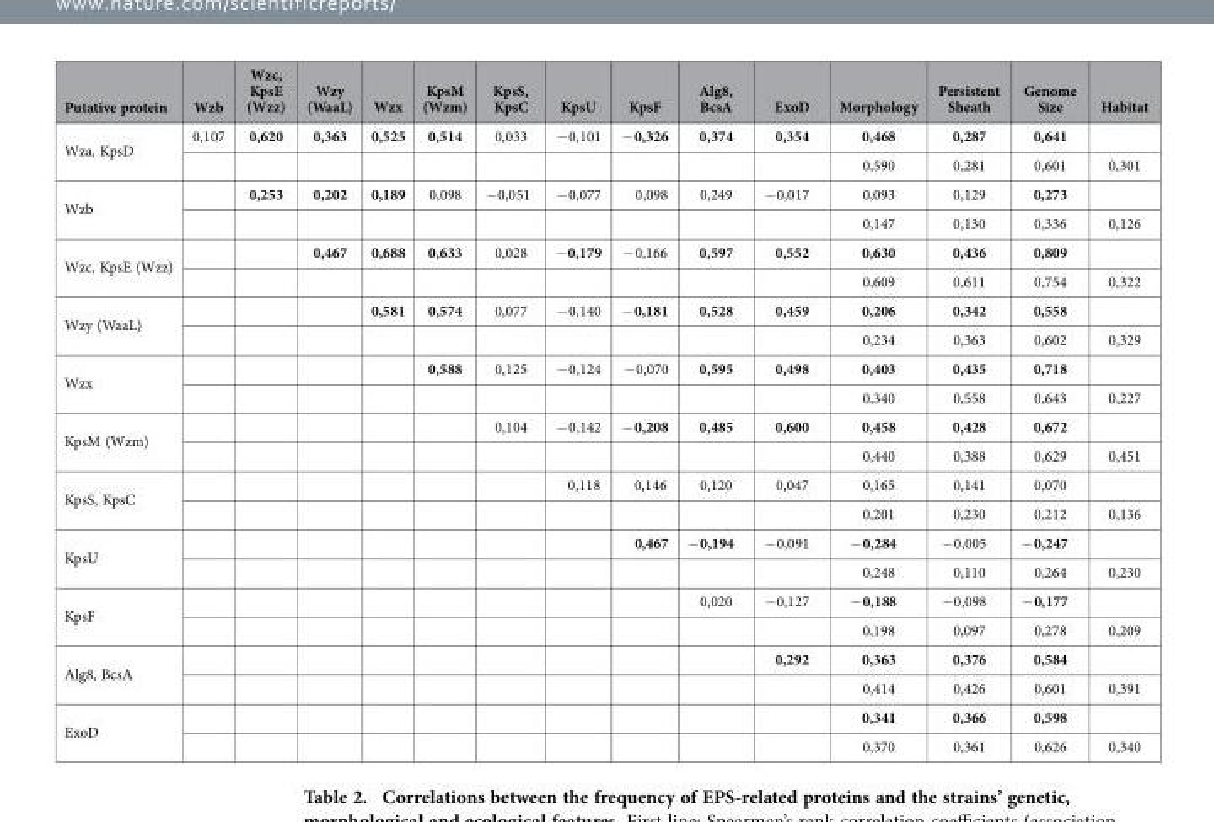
<table><thead><tr><td>Putative protein</td><td>Wzb</td><td>Wzc, KpsE (Wzz)</td><td>Wzy (WaaL)</td><td>Wzx</td><td>KpsM (Wzm)</td><td>KpsS, KpsC</td><td>KpsU</td><td>KpsF</td><td>Alg8, BcsA</td><td>ExoD</td><td>Morphology</td><td>Persistent Sheath</td><td>Genome Size</td><td>Habitat</td></tr></thead><tbody><tr><td rowspan="2">Wza, KpsD</td><td>0,107</td><td>0,620</td><td>0,363</td><td>0,525</td><td>0,514</td><td>0,033</td><td>− 0,101</td><td>− 0,326</td><td>0,374</td><td>0,354</td><td>0,468</td><td>0,287</td><td>0,641</td><td></td></tr><tr><td></td><td></td><td></td><td></td><td></td><td></td><td></td><td></td><td></td><td></td><td>0,590</td><td>0,281</td><td>0,601</td><td>0,301</td></tr><tr><td rowspan="2">Wzb</td><td></td><td>0,253</td><td>0,202</td><td>0,189</td><td>0,098</td><td>− 0,051</td><td>− 0,077</td><td>0,098</td><td>0,249</td><td>− 0,017</td><td>0,093</td><td>0,129</td><td>0,273</td><td></td></tr><tr><td></td><td></td><td></td><td></td><td></td><td></td><td></td><td></td><td></td><td></td><td>0,147</td><td>0,130</td><td>0,336</td><td>0,126</td></tr><tr><td rowspan="2">Wzc, KpsE (Wzz)</td><td></td><td></td><td>0,467</td><td>0,688</td><td>0,633</td><td>0,028</td><td>− 0,179</td><td>− 0,166</td><td>0,597</td><td>0,552</td><td>0,630</td><td>0,436</td><td>0,809</td><td></td></tr><tr><td></td><td></td><td></td><td></td><td></td><td></td><td></td><td></td><td></td><td></td><td>0,609</td><td>0,611</td><td>0,754</td><td>0,322</td></tr><tr><td rowspan="2">Wzy (WaaL)</td><td></td><td></td><td></td><td>0,581</td><td>0,574</td><td>0,077</td><td>− 0,140</td><td>− 0,181</td><td>0,528</td><td>0,459</td><td>0,206</td><td>0,342</td><td>0,558</td><td></td></tr><tr><td></td><td></td><td></td><td></td><td></td><td></td><td></td><td></td><td></td><td></td><td>0,234</td><td>0,363</td><td>0,602</td><td>0,329</td></tr><tr><td rowspan="2">Wzx</td><td></td><td></td><td></td><td></td><td>0,588</td><td>0,125</td><td>− 0,124</td><td>− 0,070</td><td>0,595</td><td>0,498</td><td>0,403</td><td>0,435</td><td>0,718</td><td></td></tr><tr><td></td><td></td><td></td><td></td><td></td><td></td><td></td><td></td><td></td><td></td><td>0,340</td><td>0,558</td><td>0,643</td><td>0,227</td></tr><tr><td rowspan="2">KpsM (Wzm)</td><td></td><td></td><td></td><td></td><td></td><td>0,104</td><td>− 0,142</td><td>− 0,208</td><td>0,485</td><td>0,600</td><td>0,458</td><td>0,428</td><td>0,672</td><td></td></tr><tr><td></td><td></td><td></td><td></td><td></td><td></td><td></td><td></td><td></td><td></td><td>0,440</td><td>0,388</td><td>0,629</td><td>0,451</td></tr><tr><td rowspan="2">KpsS, KpsC</td><td></td><td></td><td></td><td></td><td></td><td></td><td>0,118</td><td>0,146</td><td>0,120</td><td>0,047</td><td>0,165</td><td>0,141</td><td>0,070</td><td></td></tr><tr><td></td><td></td><td></td><td></td><td></td><td></td><td></td><td></td><td></td><td></td><td>0,201</td><td>0,230</td><td>0,212</td><td>0,136</td></tr><tr><td rowspan="2">KpsU</td><td></td><td></td><td></td><td></td><td></td><td></td><td></td><td>0,467</td><td>− 0,194</td><td>− 0,091</td><td>− 0,284</td><td>− 0,005</td><td>− 0,247</td><td></td></tr><tr><td></td><td></td><td></td><td></td><td></td><td></td><td></td><td></td><td></td><td></td><td>0,248</td><td>0,110</td><td>0,264</td><td>0,230</td></tr><tr><td rowspan="2">KpsF</td><td></td><td></td><td></td><td></td><td></td><td></td><td></td><td></td><td>0,020</td><td>− 0,127</td><td>− 0,188</td><td>− 0,098</td><td>− 0,177</td><td></td></tr><tr><td></td><td></td><td></td><td></td><td></td><td></td><td></td><td></td><td></td><td></td><td>0,198</td><td>0,097</td><td>0,278</td><td>0,209</td></tr><tr><td rowspan="2">Alg8, BcsA</td><td></td><td></td><td></td><td></td><td></td><td></td><td></td><td></td><td></td><td>0,292</td><td>0,363</td><td>0,376</td><td>0,584</td><td></td></tr><tr><td></td><td></td><td></td><td></td><td></td><td></td><td></td><td></td><td></td><td></td><td>0,414</td><td>0,426</td><td>0,601</td><td>0,391</td></tr><tr><td rowspan="2">ExoD</td><td></td><td></td><td></td><td></td><td></td><td></td><td></td><td></td><td></td><td></td><td>0,341</td><td>0,366</td><td>0,598</td><td></td></tr><tr><td></td><td></td><td></td><td></td><td></td><td></td><td></td><td></td><td></td><td></td><td>0,370</td><td>0,361</td><td>0,626</td><td>0,340</td></tr></tbody></table>